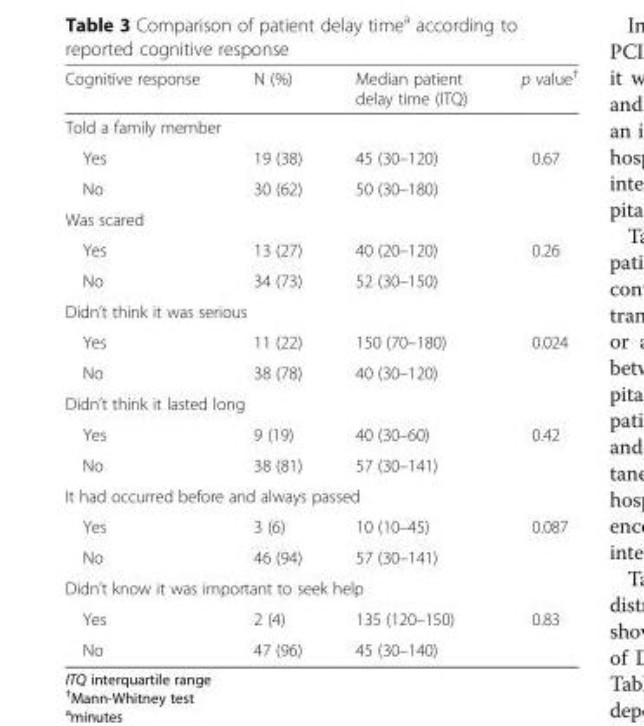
<table><thead><tr><td>Cognitive response</td><td>N (%)</td><td>Median patient delay time (ITQ)</td><td>p value<sup>†</sup></td></tr></thead><tbody><tr><td colspan="4">Told a family member</td></tr><tr><td>Yes</td><td>19 (38)</td><td>45 (30–120)</td><td>0.67</td></tr><tr><td>No</td><td>30 (62)</td><td>50 (30–180)</td><td></td></tr><tr><td colspan="4">Was scared</td></tr><tr><td>Yes</td><td>13 (27)</td><td>40 (20–120)</td><td>0.26</td></tr><tr><td>No</td><td>34 (73)</td><td>52 (30–150)</td><td></td></tr><tr><td colspan="4">Didn’t think it was serious</td></tr><tr><td>Yes</td><td>11 (22)</td><td>150 (70–180)</td><td>0.024</td></tr><tr><td>No</td><td>38 (78)</td><td>40 (30–120)</td><td></td></tr><tr><td colspan="4">Didn’t think it lasted long</td></tr><tr><td>Yes</td><td>9 (19)</td><td>40 (30–60)</td><td>0.42</td></tr><tr><td>No</td><td>38 (81)</td><td>57 (30–141)</td><td></td></tr><tr><td colspan="4">It had occurred before and always passed</td></tr><tr><td>Yes</td><td>3 (6)</td><td>10 (10–45)</td><td>0.087</td></tr><tr><td>No</td><td>46 (94)</td><td>57 (30–141)</td><td></td></tr><tr><td colspan="4">Didn’t know it was important to seek help</td></tr><tr><td>Yes</td><td>2 (4)</td><td>135 (120–150)</td><td>0.83</td></tr><tr><td>No</td><td>47 (96)</td><td>45 (30–140)</td><td></td></tr></tbody></table>